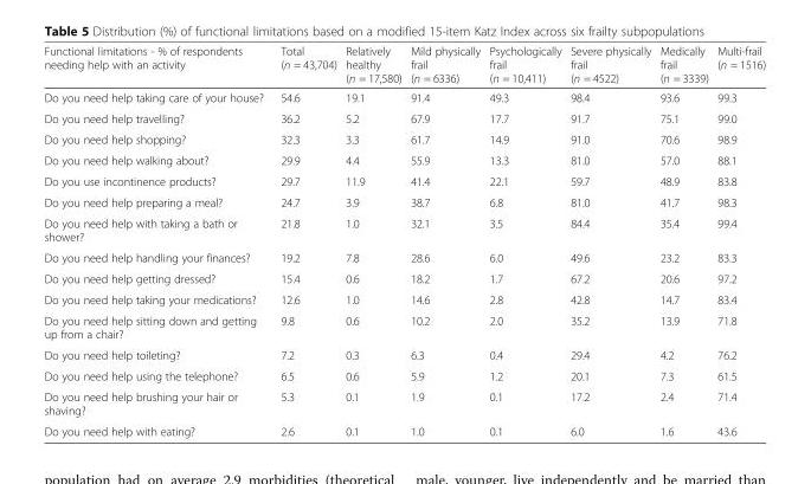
<table><thead><tr><td>Functional limitations - % of respondents needing help with an activity</td><td>Total (n = 43,704)</td><td>Relatively healthy (n = 17,580)</td><td>Mild physically frail (n = 6336)</td><td>Psychologically frail (n = 10,411)</td><td>Severe physically frail (n = 4522)</td><td>Medically frail (n = 3339)</td><td>Multi-frail (n = 1516)</td></tr></thead><tbody><tr><td>Do you need help taking care of your house?</td><td>54.6</td><td>19.1</td><td>91.4</td><td>49.3</td><td>98.4</td><td>93.6</td><td>99.3</td></tr><tr><td>Do you need help travelling?</td><td>36.2</td><td>5.2</td><td>67.9</td><td>17.7</td><td>91.7</td><td>75.1</td><td>99.0</td></tr><tr><td>Do you need help shopping?</td><td>32.3</td><td>3.3</td><td>61.7</td><td>14.9</td><td>91.0</td><td>70.6</td><td>98.9</td></tr><tr><td>Do you need help walking about?</td><td>29.9</td><td>4.4</td><td>55.9</td><td>13.3</td><td>81.0</td><td>57.0</td><td>88.1</td></tr><tr><td>Do you use incontinence products?</td><td>29.7</td><td>11.9</td><td>41.4</td><td>22.1</td><td>59.7</td><td>48.9</td><td>83.8</td></tr><tr><td>Do you need help preparing a meal?</td><td>24.7</td><td>3.9</td><td>38.7</td><td>6.8</td><td>81.0</td><td>41.7</td><td>98.3</td></tr><tr><td>Do you need help with taking a bath or shower?</td><td>21.8</td><td>1.0</td><td>32.1</td><td>3.5</td><td>84.4</td><td>35.4</td><td>99.4</td></tr><tr><td>Do you need help handling your finances?</td><td>19.2</td><td>7.8</td><td>28.6</td><td>6.0</td><td>49.6</td><td>23.2</td><td>83.3</td></tr><tr><td>Do you need help getting dressed?</td><td>15.4</td><td>0.6</td><td>18.2</td><td>1.7</td><td>67.2</td><td>20.6</td><td>97.2</td></tr><tr><td>Do you need help taking your medications?</td><td>12.6</td><td>1.0</td><td>14.6</td><td>2.8</td><td>42.8</td><td>14.7</td><td>83.4</td></tr><tr><td>Do you need help sitting down and getting up from a chair?</td><td>9.8</td><td>0.6</td><td>10.2</td><td>2.0</td><td>35.2</td><td>13.9</td><td>71.8</td></tr><tr><td>Do you need help toileting?</td><td>7.2</td><td>0.3</td><td>6.3</td><td>0.4</td><td>29.4</td><td>4.2</td><td>76.2</td></tr><tr><td>Do you need help using the telephone?</td><td>6.5</td><td>0.6</td><td>5.9</td><td>1.2</td><td>20.1</td><td>7.3</td><td>61.5</td></tr><tr><td>Do you need help brushing your hair or shaving?</td><td>5.3</td><td>0.1</td><td>1.9</td><td>0.1</td><td>17.2</td><td>2.4</td><td>71.4</td></tr><tr><td>Do you need help with eating?</td><td>2.6</td><td>0.1</td><td>1.0</td><td>0.1</td><td>6.0</td><td>1.6</td><td>43.6</td></tr></tbody></table>